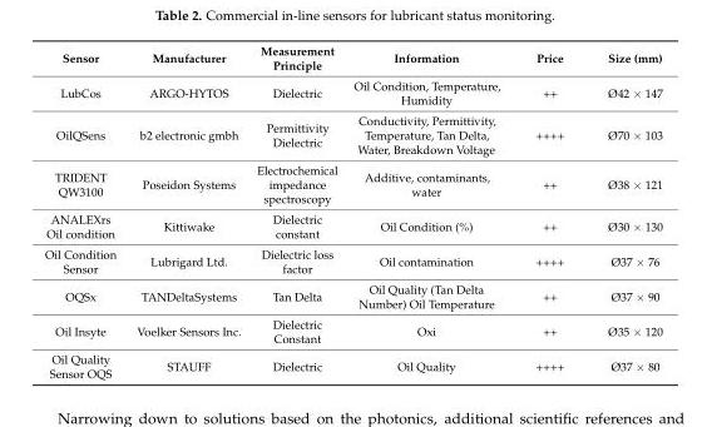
<table><thead><tr><td>Sensor</td><td>Manufacturer</td><td>Measurement Principle</td><td>Information</td><td>Price</td><td>Size (mm)</td></tr></thead><tbody><tr><td>LubCos</td><td>ARGO-HYTOS</td><td>Dielectric</td><td>Oil Condition, Temperature, Humidity</td><td>++</td><td>Ø42 × 147</td></tr><tr><td>OilQSens</td><td>b2 electronic gmbh</td><td>Permittivity Dielectric</td><td>Conductivity, Permittivity, Temperature, Tan Delta, Water, Breakdown Voltage</td><td>++++</td><td>Ø70 × 103</td></tr><tr><td>TRIDENT QW3100</td><td>Poseidon Systems</td><td>Electrochemical impedance spectroscopy</td><td>Additive, contaminants, water</td><td>++</td><td>Ø38 × 121</td></tr><tr><td>ANALEXrs Oil condition</td><td>Kittiwake</td><td>Dielectric constant</td><td>Oil Condition (%)</td><td>++</td><td>Ø30 × 130</td></tr><tr><td>Oil Condition Sensor</td><td>Lubrigard Ltd.</td><td>Dielectric loss factor</td><td>Oil contamination</td><td>++++</td><td>Ø37 × 76</td></tr><tr><td>OQSx</td><td>TANDeltaSystems</td><td>Tan Delta</td><td>Oil Quality (Tan Delta Number) Oil Temperature</td><td>++</td><td>Ø37 × 90</td></tr><tr><td>Oil Insyte</td><td>Voelker Sensors Inc.</td><td>Dielectric Constant</td><td>Oxi</td><td>++</td><td>Ø35 × 120</td></tr><tr><td>Oil Quality Sensor OQS</td><td>STAUFF</td><td>Dielectric</td><td>Oil Quality</td><td>++++</td><td>Ø37 × 80</td></tr></tbody></table>